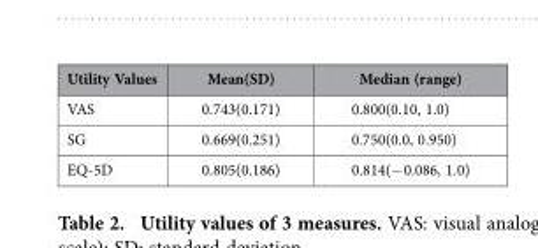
<table><thead><tr><td>Utility Values</td><td>Mean(SD)</td><td>Median (range)</td></tr></thead><tbody><tr><td>VAS</td><td>0.743(0.171)</td><td>0.800(0.10, 1.0)</td></tr><tr><td>SG</td><td>0.669(0.251)</td><td>0.750(0.0, 0.950)</td></tr><tr><td>EQ-5D</td><td>0.805(0.186)</td><td>0.814(− 0.086, 1.0)</td></tr></tbody></table>